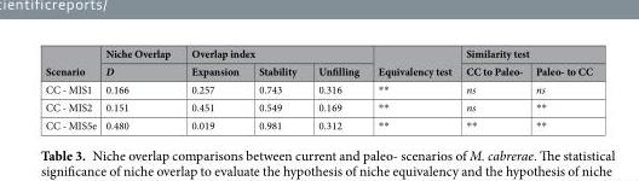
<table><thead><tr><td rowspan="2">Scenario</td><td rowspan="2">Niche Overlap D</td><td colspan="3">Overlap index</td><td rowspan="2">Equivalency test</td><td colspan="2">Similarity test</td></tr><tr><td>Expansion</td><td>Stability</td><td>Unfilling</td><td>CC to Paleo-</td><td>Paleo- to CC</td></tr></thead><tbody><tr><td>CC - MIS1</td><td>0.166</td><td>0.257</td><td>0.743</td><td>0.316</td><td>**</td><td>ns</td><td>ns</td></tr><tr><td>CC - MIS2</td><td>0.151</td><td>0.451</td><td>0.549</td><td>0.169</td><td>**</td><td>ns</td><td>**</td></tr><tr><td>CC - MIS5e</td><td>0.480</td><td>0.019</td><td>0.981</td><td>0.312</td><td>**</td><td>**</td><td>**</td></tr></tbody></table>